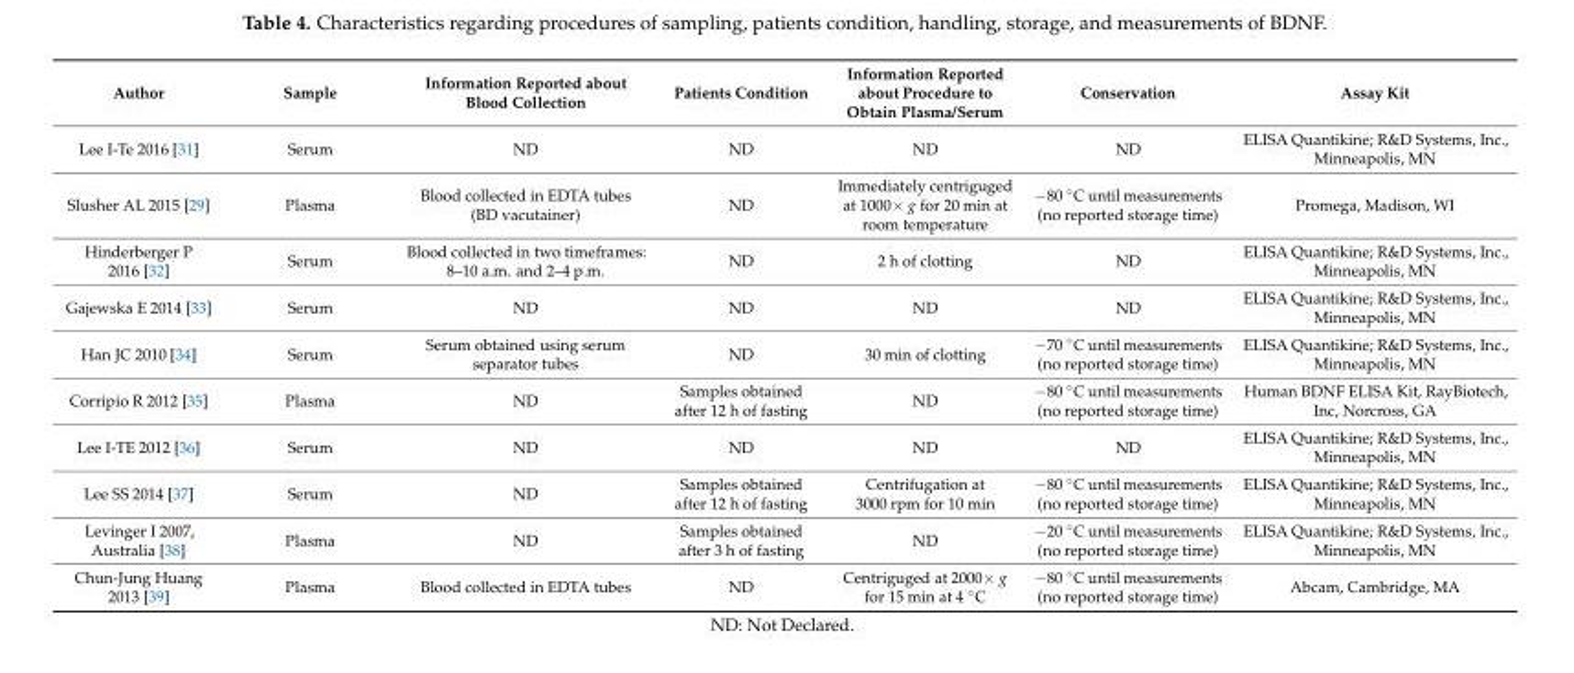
<table><thead><tr><td>Author</td><td>Sample</td><td>Information Reported about Blood Collection</td><td>Patients Condition</td><td>Information Reported about Procedure to Obtain Plasma/Serum</td><td>Conservation</td><td>Assay Kit</td></tr></thead><tbody><tr><td>Lee I-Te 2016 [31]</td><td>Serum</td><td>ND</td><td>ND</td><td>ND</td><td>ND</td><td>ELISA Quantikine; R&amp;D Systems, Inc., Minneapolis, MN</td></tr><tr><td>Slusher AL 2015 [29]</td><td>Plasma</td><td>Blood collected in EDTA tubes (BD vacutainer)</td><td>ND</td><td>Immediately centriguged at 1000× g for 20 min at room temperature</td><td>−80 ◦C until measurements (no reported storage time)</td><td>Promega, Madison, WI</td></tr><tr><td>Hinderberger P 2016 [32]</td><td>Serum</td><td>Blood collected in two timeframes: 8–10 a.m. and 2–4 p.m.</td><td>ND</td><td>2 h of clotting</td><td>ND</td><td>ELISA Quantikine; R&amp;D Systems, Inc., Minneapolis, MN</td></tr><tr><td>Gajewska E 2014 [33]</td><td>Serum</td><td>ND</td><td>ND</td><td>ND</td><td>ND</td><td>ELISA Quantikine; R&amp;D Systems, Inc., Minneapolis, MN</td></tr><tr><td>Han JC 2010 [34]</td><td>Serum</td><td>Serum obtained using serum separator tubes</td><td>ND</td><td>30 min of clotting</td><td>−70 ◦C until measurements (no reported storage time)</td><td>ELISA Quantikine; R&amp;D Systems, Inc., Minneapolis, MN</td></tr><tr><td>Corripio R 2012 [35]</td><td>Plasma</td><td>ND</td><td>Samples obtained after 12 h of fasting</td><td>ND</td><td>−80 ◦C until measurements (no reported storage time)</td><td>Human BDNF ELISA Kit, RayBiotech, Inc, Norcross, GA</td></tr><tr><td>Lee I-TE 2012 [36]</td><td>Serum</td><td>ND</td><td>ND</td><td>ND</td><td>ND</td><td>ELISA Quantikine; R&amp;D Systems, Inc., Minneapolis, MN</td></tr><tr><td>Lee SS 2014 [37]</td><td>Serum</td><td>ND</td><td>Samples obtained after 12 h of fasting</td><td>Centrifugation at 3000 rpm for 10 min</td><td>−80 ◦C until measurements (no reported storage time)</td><td>ELISA Quantikine; R&amp;D Systems, Inc., Minneapolis, MN</td></tr><tr><td>Levinger I 2007, Australia [38]</td><td>Plasma</td><td>ND</td><td>Samples obtained after 3 h of fasting</td><td>ND</td><td>−20 ◦C until measurements (no reported storage time)</td><td>ELISA Quantikine; R&amp;D Systems, Inc., Minneapolis, MN</td></tr><tr><td>Chun-Jung Huang 2013 [39]</td><td>Plasma</td><td>Blood collected in EDTA tubes</td><td>ND</td><td>Centriguged at 2000× g for 15 min at 4 ◦C</td><td>−80 ◦C until measurements (no reported storage time)</td><td>Abcam, Cambridge, MA</td></tr></tbody></table>